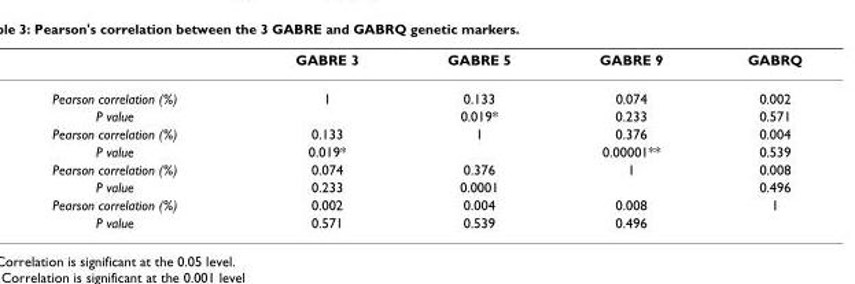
<table><thead><tr><td></td><td>GABRE 3</td><td>GABRE 5</td><td>GABRE 9</td><td>GABRQ</td></tr></thead><tbody><tr><td>Pearson correlation (%)</td><td>1</td><td>0.133</td><td>0.074</td><td>0.002</td></tr><tr><td>P value</td><td></td><td>0.019*</td><td>0.233</td><td>0.571</td></tr><tr><td>Pearson correlation (%)</td><td>0.133</td><td>1</td><td>0.376</td><td>0.004</td></tr><tr><td>P value</td><td>0.019*</td><td></td><td>0.00001**</td><td>0.539</td></tr><tr><td>Pearson correlation (%)</td><td>0.074</td><td>0.376</td><td>1</td><td>0.008</td></tr><tr><td>P value</td><td>0.233</td><td>0.0001</td><td></td><td>0.496</td></tr><tr><td>Pearson correlation (%)</td><td>0.002</td><td>0.004</td><td>0.008</td><td>1</td></tr><tr><td>P value</td><td>0.571</td><td>0.539</td><td>0.496</td><td></td></tr></tbody></table>